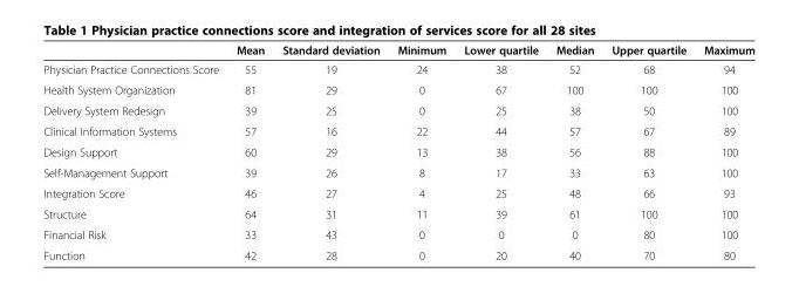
<table><thead><tr><td></td><td>Mean</td><td>Standard deviation</td><td>Minimum</td><td>Lower quartile</td><td>Median</td><td>Upper quartile</td><td>Maximum</td></tr></thead><tbody><tr><td>Physician Practice Connections Score</td><td>55</td><td>19</td><td>24</td><td>38</td><td>52</td><td>68</td><td>94</td></tr><tr><td>Health System Organization</td><td>81</td><td>29</td><td>0</td><td>67</td><td>100</td><td>100</td><td>100</td></tr><tr><td>Delivery System Redesign</td><td>39</td><td>25</td><td>0</td><td>25</td><td>38</td><td>50</td><td>100</td></tr><tr><td>Clinical Information Systems</td><td>57</td><td>16</td><td>22</td><td>44</td><td>57</td><td>67</td><td>89</td></tr><tr><td>Design Support</td><td>60</td><td>29</td><td>13</td><td>38</td><td>56</td><td>88</td><td>100</td></tr><tr><td>Self-Management Support</td><td>39</td><td>26</td><td>8</td><td>17</td><td>33</td><td>63</td><td>100</td></tr><tr><td>Integration Score</td><td>46</td><td>27</td><td>4</td><td>25</td><td>48</td><td>66</td><td>93</td></tr><tr><td>Structure</td><td>64</td><td>31</td><td>11</td><td>39</td><td>61</td><td>100</td><td>100</td></tr><tr><td>Financial Risk</td><td>33</td><td>43</td><td>0</td><td>0</td><td>0</td><td>80</td><td>100</td></tr><tr><td>Function</td><td>42</td><td>28</td><td>0</td><td>20</td><td>40</td><td>70</td><td>80</td></tr></tbody></table>